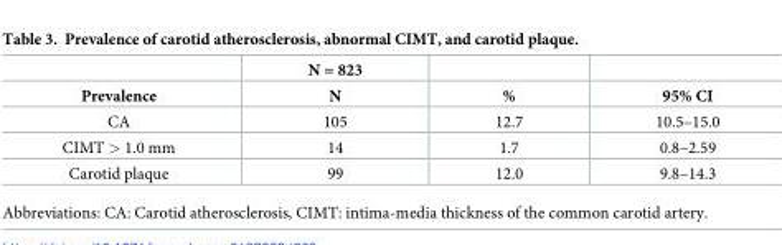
<table><thead><tr><td rowspan="2">Prevalence</td><td rowspan="2">N = 823 N</td><td rowspan="2">%</td><td rowspan="2">95% CI</td></tr><tr></tr></thead><tbody><tr><td>CA</td><td>105</td><td>12.7</td><td>10.5–15.0</td></tr><tr><td>CIMT &gt; 1.0 mm</td><td>14</td><td>1.7</td><td>0.8–2.59</td></tr><tr><td>Carotid plaque</td><td>99</td><td>12.0</td><td>9.8–14.3</td></tr></tbody></table>